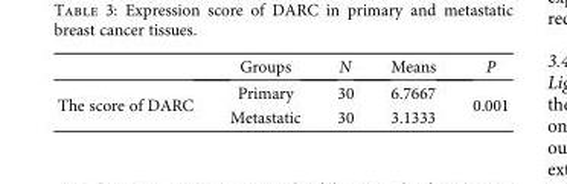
<table><thead><tr><td></td><td>Groups</td><td>N</td><td>Means</td><td>P</td></tr></thead><tbody><tr><td rowspan="2">The score of DARC</td><td>Primary</td><td>30</td><td>6.7667</td><td rowspan="2">0.001</td></tr><tr><td>Metastatic</td><td>30</td><td>3.1333</td></tr></tbody></table>